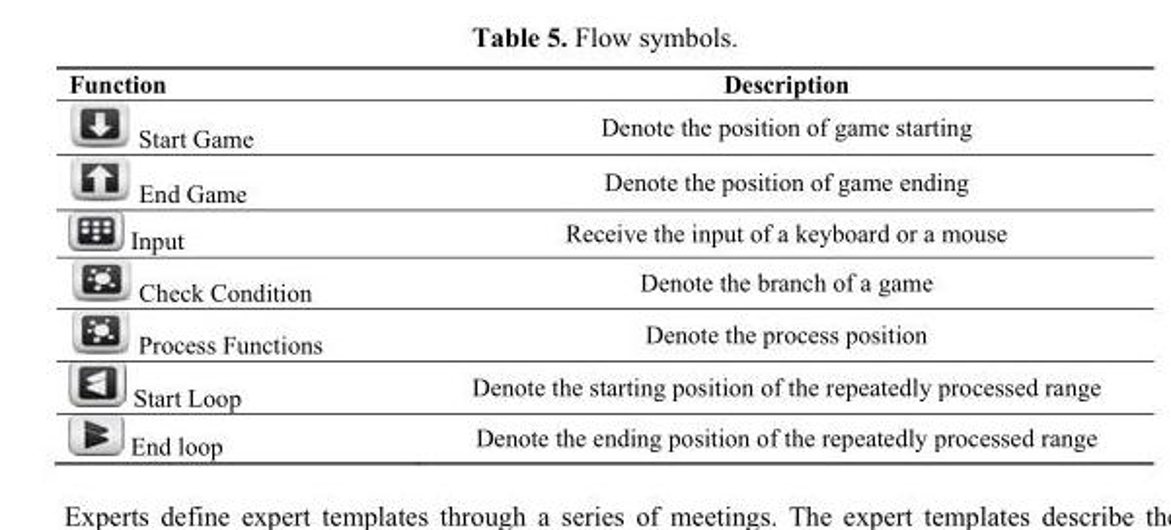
<table><thead><tr><td>Function</td><td>Description</td></tr></thead><tbody><tr><td>Start Game</td><td>Denote the position of game starting</td></tr><tr><td>End Game</td><td>Denote the position of game ending</td></tr><tr><td>Input</td><td>Receive the input of a keyboard or a mouse</td></tr><tr><td>Check Condition</td><td>Denote the branch of a game</td></tr><tr><td>Process Functions</td><td>Denote the process position</td></tr><tr><td>Start Loop</td><td>Denote the starting position of the repeatedly processed range</td></tr><tr><td>End loop</td><td>Denote the ending position of the repeatedly processed range</td></tr></tbody></table>